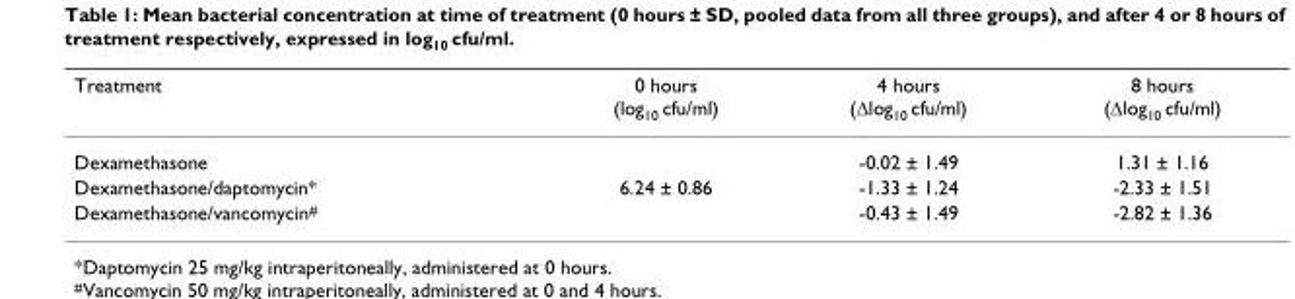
<table><thead><tr><td>Treatment</td><td>0 hours (log<sub>10</sub> cfu/ml)</td><td>4 hours (Δlog<sub>10</sub> cfu/ml)</td><td>8 hours (Δlog<sub>10</sub> cfu/ml)</td></tr></thead><tbody><tr><td>Dexamethasone</td><td></td><td>-0.02 ± 1.49</td><td>1.31 ± 1.16</td></tr><tr><td>Dexamethasone/daptomycin*</td><td>6.24 ± 0.86</td><td>-1.33 ± 1.24</td><td>-2.33 ± 1.51</td></tr><tr><td>Dexamethasone/vancomycin<sup>#</sup></td><td></td><td>-0.43 ± 1.49</td><td>-2.82 ± 1.36</td></tr></tbody></table>